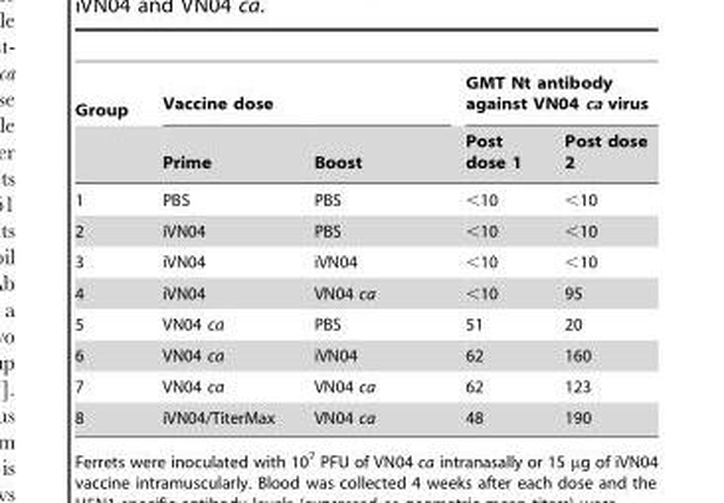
<table><thead><tr><td rowspan="2">Group</td><td colspan="2">Vaccine dose</td><td colspan="2">GMT Nt antibody against VN04 ca virus</td></tr><tr><td>Prime</td><td>Boost</td><td>Post dose 1</td><td>Post dose 2</td></tr></thead><tbody><tr><td>1</td><td>PBS</td><td>PBS</td><td>&lt;10</td><td>&lt;10</td></tr><tr><td>2</td><td>iVN04</td><td>PBS</td><td>&lt;10</td><td>&lt;10</td></tr><tr><td>3</td><td>iVN04</td><td>iVN04</td><td>&lt;10</td><td>&lt;10</td></tr><tr><td>4</td><td>iVN04</td><td>VN04 ca</td><td>&lt;10</td><td>95</td></tr><tr><td>5</td><td>VN04 ca</td><td>PBS</td><td>51</td><td>20</td></tr><tr><td>6</td><td>VN04 ca</td><td>iVN04</td><td>62</td><td>160</td></tr><tr><td>7</td><td>VN04 ca</td><td>VN04 ca</td><td>62</td><td>123</td></tr><tr><td>8</td><td>iVN04/TiterMax</td><td>VN04 ca</td><td>48</td><td>190</td></tr></tbody></table>